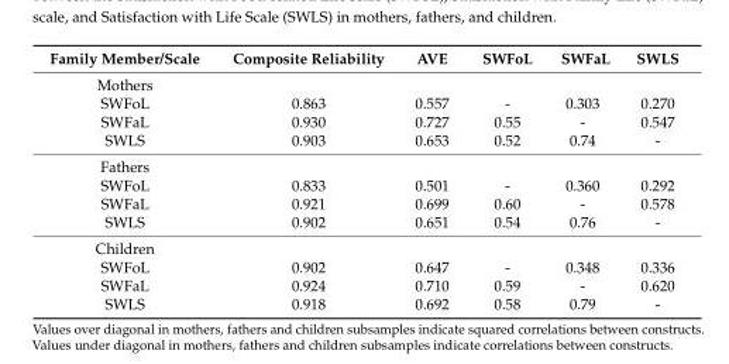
<table><thead><tr><td>Family Member/Scale</td><td>Composite Reliability</td><td>AVE</td><td>SWFoL</td><td>SWFaL</td><td>SWLS</td></tr></thead><tbody><tr><td colspan="6">Mothers</td></tr><tr><td>SWFoL</td><td>0.863</td><td>0.557</td><td>-</td><td>0.303</td><td>0.270</td></tr><tr><td>SWFaL</td><td>0.930</td><td>0.727</td><td>0.55</td><td>-</td><td>0.547</td></tr><tr><td>SWLS</td><td>0.903</td><td>0.653</td><td>0.52</td><td>0.74</td><td>-</td></tr><tr><td colspan="6">Fathers</td></tr><tr><td>SWFoL</td><td>0.833</td><td>0.501</td><td>-</td><td>0.360</td><td>0.292</td></tr><tr><td>SWFaL</td><td>0.921</td><td>0.699</td><td>0.60</td><td>-</td><td>0.578</td></tr><tr><td>SWLS</td><td>0.902</td><td>0.651</td><td>0.54</td><td>0.76</td><td>-</td></tr><tr><td colspan="6">Children</td></tr><tr><td>SWFoL</td><td>0.902</td><td>0.647</td><td>-</td><td>0.348</td><td>0.336</td></tr><tr><td>SWFaL</td><td>0.924</td><td>0.710</td><td>0.59</td><td>-</td><td>0.620</td></tr><tr><td>SWLS</td><td>0.918</td><td>0.692</td><td>0.58</td><td>0.79</td><td>-</td></tr></tbody></table>